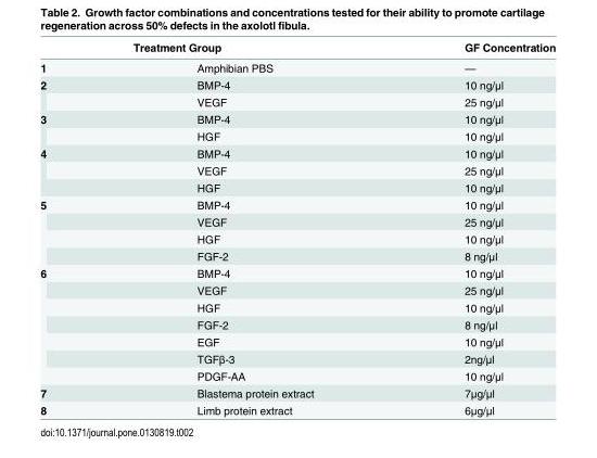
<table><thead><tr><td colspan="2">Treatment Group</td><td rowspan="2">GF Concentration —</td></tr><tr><td>1</td><td>Amphibian PBS</td></tr></thead><tbody><tr><td rowspan="2">2</td><td>BMP-4</td><td>10 ng/μl</td></tr><tr><td>VEGF</td><td>25 ng/μl</td></tr><tr><td rowspan="2">3</td><td>BMP-4</td><td>10 ng/μl</td></tr><tr><td>HGF</td><td>10 ng/μl</td></tr><tr><td rowspan="3">4</td><td>BMP-4</td><td>10 ng/μl</td></tr><tr><td>VEGF</td><td>25 ng/μl</td></tr><tr><td>HGF</td><td>10 ng/μl</td></tr><tr><td rowspan="4">5</td><td>BMP-4</td><td>10 ng/μl</td></tr><tr><td>VEGF</td><td>25 ng/μl</td></tr><tr><td>HGF</td><td>10 ng/μl</td></tr><tr><td>FGF-2</td><td>8 ng/μl</td></tr><tr><td rowspan="7">6</td><td>BMP-4</td><td>10 ng/μl</td></tr><tr><td>VEGF</td><td>25 ng/μl</td></tr><tr><td>HGF</td><td>10 ng/μl</td></tr><tr><td>FGF-2</td><td>8 ng/μl</td></tr><tr><td>EGF</td><td>10 ng/μl</td></tr><tr><td>TGFβ-3</td><td>2ng/μl</td></tr><tr><td>PDGF-AA</td><td>10 ng/μl</td></tr><tr><td>7</td><td>Blastema protein extract</td><td>7μg/μl</td></tr><tr><td>8</td><td>Limb protein extract</td><td>6μg/μl</td></tr></tbody></table>